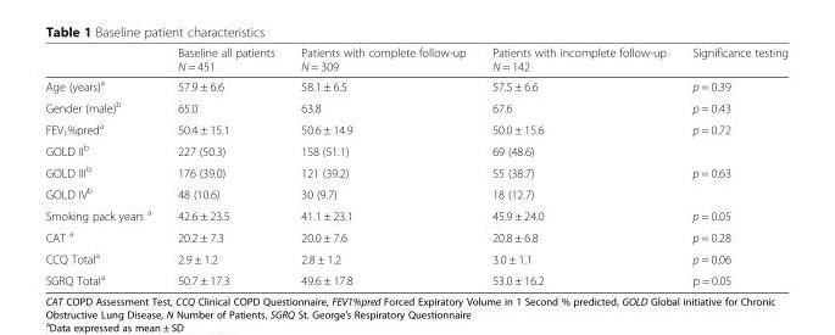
<table><thead><tr><td></td><td>Baseline all patients N = 451</td><td>Patients with complete follow-up N = 309</td><td>Patients with incomplete follow-up N = 142</td><td>Significance testing</td></tr></thead><tbody><tr><td>Age (years)<sup>a</sup></td><td>57.9 ± 6.6</td><td>58.1 ± 6.5</td><td>57.5 ± 6.6</td><td>p = 0.39</td></tr><tr><td>Gender (male)<sup>b</sup></td><td>65.0</td><td>63.8</td><td>67.6</td><td>p = 0.43</td></tr><tr><td>FEV<sub>1</sub>%pred<sup>a</sup></td><td>50.4 ± 15.1</td><td>50.6 ± 14.9</td><td>50.0 ± 15.6</td><td>p = 0.72</td></tr><tr><td>GOLD II<sup>b</sup></td><td>227 (50.3)</td><td>158 (51.1)</td><td>69 (48.6)</td><td></td></tr><tr><td>GOLD III<sup>b</sup></td><td>176 (39.0)</td><td>121 (39.2)</td><td>55 (38.7)</td><td>p = 0.63</td></tr><tr><td>GOLD IV<sup>b</sup></td><td>48 (10.6)</td><td>30 (9.7)</td><td>18 (12.7)</td><td></td></tr><tr><td>Smoking pack years <sup>a</sup></td><td>42.6 ± 23.5</td><td>41.1 ± 23.1</td><td>45.9 ± 24.0</td><td>p = 0.05</td></tr><tr><td>CAT <sup>a</sup></td><td>20.2 ± 7.3</td><td>20.0 ± 7.6</td><td>20.8 ± 6.8</td><td>p = 0.28</td></tr><tr><td>CCQ Total<sup>a</sup></td><td>2.9 ± 1.2</td><td>2.8 ± 1.2</td><td>3.0 ± 1.1</td><td>p = 0.06</td></tr><tr><td>SGRQ Total<sup>a</sup></td><td>50.7 ± 17.3</td><td>49.6 ± 17.8</td><td>53.0 ± 16.2</td><td>p = 0.05</td></tr></tbody></table>